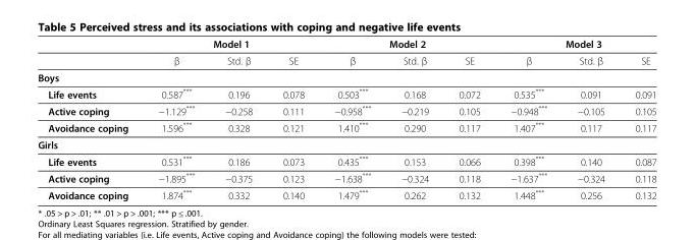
<table><thead><tr><td rowspan="2"></td><td colspan="3">Model 1</td><td colspan="3">Model 2</td><td colspan="3">Model 3</td></tr><tr><td>β</td><td>Std. β</td><td>SE</td><td>β</td><td>Std. β</td><td>SE</td><td>β</td><td>Std. β</td><td>SE</td></tr></thead><tbody><tr><td colspan="10">Boys</td></tr><tr><td>Life events</td><td>0.587***</td><td>0.196</td><td>0.078</td><td>0.503***</td><td>0.168</td><td>0.072</td><td>0.535***</td><td>0.091</td><td>0.091</td></tr><tr><td>Active coping</td><td>−1.129***</td><td>−0.258</td><td>0.111</td><td>−0.958***</td><td>−0.219</td><td>0.105</td><td>−0.948***</td><td>−0.105</td><td>0.105</td></tr><tr><td>Avoidance coping</td><td>1.596***</td><td>0.328</td><td>0.121</td><td>1.410***</td><td>0.290</td><td>0.117</td><td>1.407***</td><td>0.117</td><td>0.117</td></tr><tr><td colspan="10">Girls</td></tr><tr><td>Life events</td><td>0.531***</td><td>0.186</td><td>0.073</td><td>0.435***</td><td>0.153</td><td>0.066</td><td>0.398***</td><td>0.140</td><td>0.087</td></tr><tr><td>Active coping</td><td>−1.895***</td><td>−0.375</td><td>0.123</td><td>−1.638***</td><td>−0.324</td><td>0.118</td><td>−1.637***</td><td>−0.324</td><td>0.118</td></tr><tr><td>Avoidance coping</td><td>1.874***</td><td>0.332</td><td>0.140</td><td>1.479***</td><td>0.262</td><td>0.132</td><td>1.448***</td><td>0.256</td><td>0.132</td></tr></tbody></table>